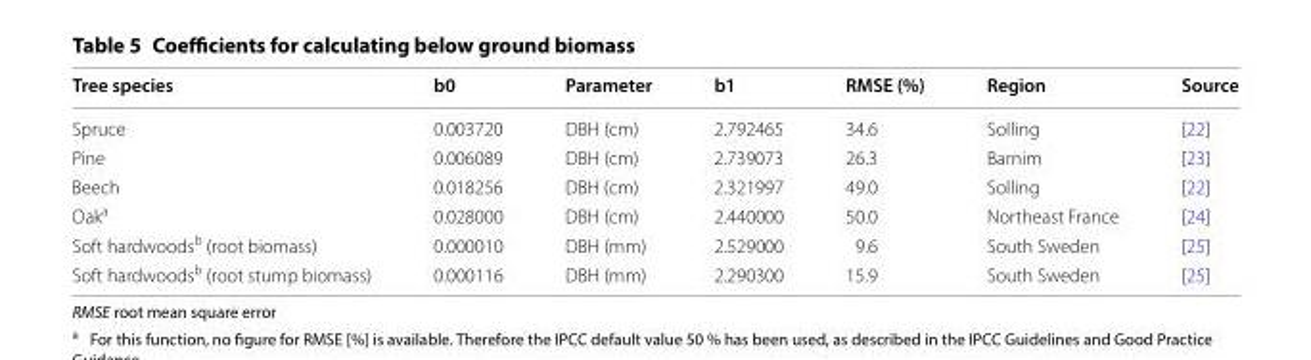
<table><thead><tr><td>Tree species</td><td>b0</td><td>Parameter</td><td>b1</td><td>RMSE (%)</td><td>Region</td><td>Source</td></tr></thead><tbody><tr><td>Spruce</td><td>0.003720</td><td>DBH (cm)</td><td>2.792465</td><td>34.6</td><td>Solling</td><td>[22]</td></tr><tr><td>Pine</td><td>0.006089</td><td>DBH (cm)</td><td>2.739073</td><td>26.3</td><td>Barnim</td><td>[23]</td></tr><tr><td>Beech</td><td>0.018256</td><td>DBH (cm)</td><td>2.321997</td><td>49.0</td><td>Solling</td><td>[22]</td></tr><tr><td>Oak<sup>a</sup></td><td>0.028000</td><td>DBH (cm)</td><td>2.440000</td><td>50.0</td><td>Northeast France</td><td>[24]</td></tr><tr><td>Soft hardwoods<sup>b</sup> (root biomass)</td><td>0.000010</td><td>DBH (mm)</td><td>2.529000</td><td>9.6</td><td>South Sweden</td><td>[25]</td></tr><tr><td>Soft hardwoods<sup>b</sup> (root stump biomass)</td><td>0.000116</td><td>DBH (mm)</td><td>2.290300</td><td>15.9</td><td>South Sweden</td><td>[25]</td></tr></tbody></table>